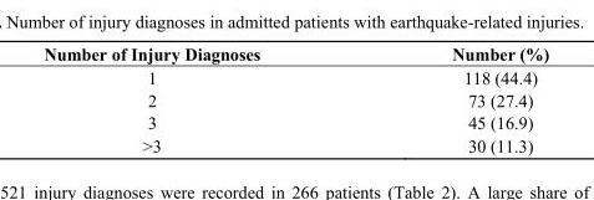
<table><thead><tr><td>Number of Injury Diagnoses</td><td>Number (%)</td></tr></thead><tbody><tr><td>1</td><td>118 (44.4)</td></tr><tr><td>2</td><td>73 (27.4)</td></tr><tr><td>3</td><td>45 (16.9)</td></tr><tr><td>&gt;3</td><td>30 (11.3)</td></tr></tbody></table>